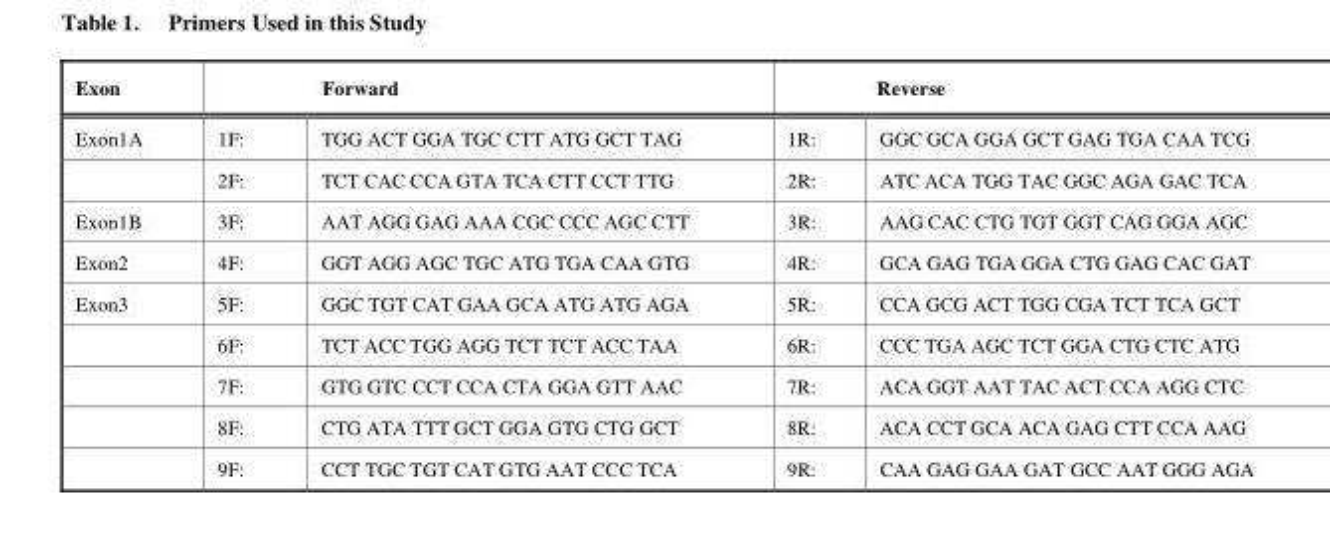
<table><thead><tr><td rowspan="2">Exon Exon1A</td><td colspan="2">Forward</td><td colspan="2">Reverse</td></tr><tr><td>1F:</td><td>TGG ACT GGA TGC CTT ATG GCT TAG</td><td>1R:</td><td>GGC GCA GGA GCT GAG TGA CAA TCG</td></tr></thead><tbody><tr><td></td><td>2F:</td><td>TCT CAC CCA GTA TCA CTT CCT TTG</td><td>2R:</td><td>ATC ACA TGG TAC GGC AGA GAC TCA</td></tr><tr><td>Exon1B</td><td>3F:</td><td>AAT AGG GAG AAA CGC CCC AGC CTT</td><td>3R:</td><td>AAG CAC CTG TGT GGT CAG GGA AGC</td></tr><tr><td>Exon2</td><td>4F:</td><td>GGT AGG AGC TGC ATG TGA CAA GTG</td><td>4R:</td><td>GCA GAG TGA GGA CTG GAG CAC GAT</td></tr><tr><td rowspan="5">Exon3</td><td>5F:</td><td>GGC TGT CAT GAA GCA ATG ATG AGA</td><td>5R:</td><td>CCA GCG ACT TGG CGA TCT TCA GCT</td></tr><tr><td>6F:</td><td>TCT ACC TGG AGG TCT TCT ACC TAA</td><td>6R:</td><td>CCC TGA AGC TCT GGA CTG CTC ATG</td></tr><tr><td>7F:</td><td>GTG GTC CCT CCA CTA GGA GTT AAC</td><td>7R:</td><td>ACA GGT AAT TAC ACT CCA AGG CTC</td></tr><tr><td>8F:</td><td>CTG ATA TTT GCT GGA GTG CTG GCT</td><td>8R:</td><td>ACA CCT GCA ACA GAG CTT CCA AAG</td></tr><tr><td>9F:</td><td>CCT TGC TGT CAT GTG AAT CCC TCA</td><td>9R:</td><td>CAA GAG GAA GAT GCC AAT GGG AGA</td></tr></tbody></table>